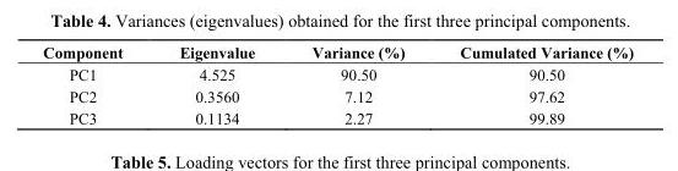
<table><thead><tr><td>Component</td><td>Eigenvalue</td><td>Variance (%)</td><td>Cumulated Variance (%)</td></tr></thead><tbody><tr><td>PC1</td><td>4.525</td><td>90.50</td><td>90.50</td></tr><tr><td>PC2</td><td>0.3560</td><td>7.12</td><td>97.62</td></tr><tr><td>PC3</td><td>0.1134</td><td>2.27</td><td>99.89</td></tr></tbody></table>